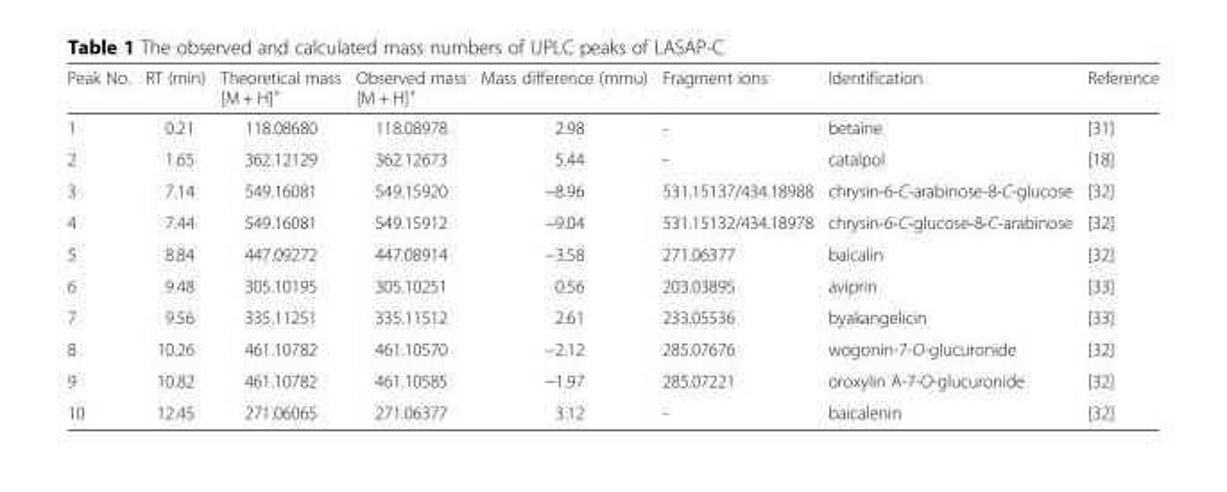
<table><thead><tr><td>Peak No.</td><td>RT (min)</td><td>Theoretical mass [M + H]<sup>+</sup></td><td>Observed mass [M + H]<sup>+</sup></td><td>Mass difference (mmu)</td><td>Fragment ions</td><td>Identification</td><td>Reference</td></tr></thead><tbody><tr><td>1</td><td>0.21</td><td>118.08680</td><td>118.08978</td><td>2.98</td><td>-</td><td>betaine</td><td>[31]</td></tr><tr><td>2</td><td>1.65</td><td>362.12129</td><td>362.12673</td><td>5.44</td><td>-</td><td>catalpol</td><td>[18]</td></tr><tr><td>3</td><td>7.14</td><td>549.16081</td><td>549.15920</td><td>−8.96</td><td>531.15137/434.18988</td><td>chrysin-6-C-arabinose-8-C-glucose</td><td>[32]</td></tr><tr><td>4</td><td>7.44</td><td>549.16081</td><td>549.15912</td><td>−9.04</td><td>531.15132/434.18978</td><td>chrysin-6-C-glucose-8-C-arabinose</td><td>[32]</td></tr><tr><td>5</td><td>8.84</td><td>447.09272</td><td>447.08914</td><td>−3.58</td><td>271.06377</td><td>baicalin</td><td>[32]</td></tr><tr><td>6</td><td>9.48</td><td>305.10195</td><td>305.10251</td><td>0.56</td><td>203.03895</td><td>aviprin</td><td>[33]</td></tr><tr><td>7</td><td>9.56</td><td>335.11251</td><td>335.11512</td><td>2.61</td><td>233.05536</td><td>byakangelicin</td><td>[33]</td></tr><tr><td>8</td><td>10.26</td><td>461.10782</td><td>461.10570</td><td>−2.12</td><td>285.07676</td><td>wogonin-7-O-glucuronide</td><td>[32]</td></tr><tr><td>9</td><td>10.82</td><td>461.10782</td><td>461.10585</td><td>−1.97</td><td>285.07221</td><td>oroxylin A-7-O-glucuronide</td><td>[32]</td></tr><tr><td>10</td><td>12.45</td><td>271.06065</td><td>271.06377</td><td>3.12</td><td>-</td><td>baicalenin</td><td>[32]</td></tr></tbody></table>